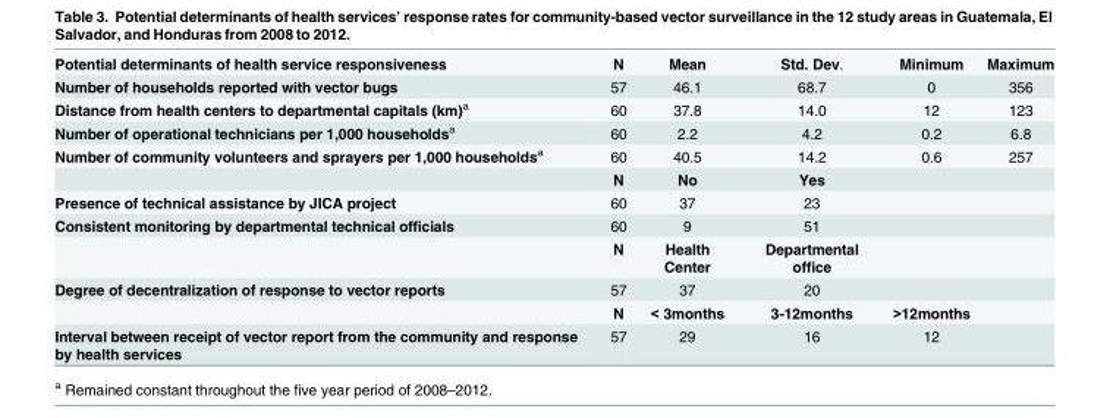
<table><tbody><tr><td>Potential determinants of health service responsiveness</td><td>N</td><td>Mean</td><td>Std. Dev.</td><td>Minimum</td><td>Maximum</td></tr><tr><td>Number of households reported with vector bugs</td><td>57</td><td>46.1</td><td>68.7</td><td>0</td><td>356</td></tr><tr><td>Distance from health centers to departmental capitals (km)<sup>a</sup></td><td>60</td><td>37.8</td><td>14.0</td><td>12</td><td>123</td></tr><tr><td>Number of operational technicians per 1,000 households<sup>a</sup></td><td>60</td><td>2.2</td><td>4.2</td><td>0.2</td><td>6.8</td></tr><tr><td rowspan="2">Number of community volunteers and sprayers per 1,000 households<sup>a</sup></td><td>60</td><td>40.5</td><td>14.2</td><td>0.6</td><td>257</td></tr><tr><td>N</td><td>No</td><td>Yes</td><td></td><td></td></tr><tr><td>Presence of technical assistance by JICA project</td><td>60</td><td>37</td><td>23</td><td></td><td></td></tr><tr><td rowspan="2">Consistent monitoring by departmental technical officials</td><td>60</td><td>9</td><td>51</td><td></td><td></td></tr><tr><td>N</td><td>Health Center</td><td>Departmental office</td><td></td><td></td></tr><tr><td rowspan="2">Degree of decentralization of response to vector reports</td><td>57</td><td>37</td><td>20</td><td></td><td></td></tr><tr><td>N</td><td>&lt; 3months</td><td>3-12months</td><td>&gt;12months</td><td></td></tr><tr><td>Interval between receipt of vector report from the community and response by health services</td><td>57</td><td>29</td><td>16</td><td>12</td><td></td></tr></tbody></table>